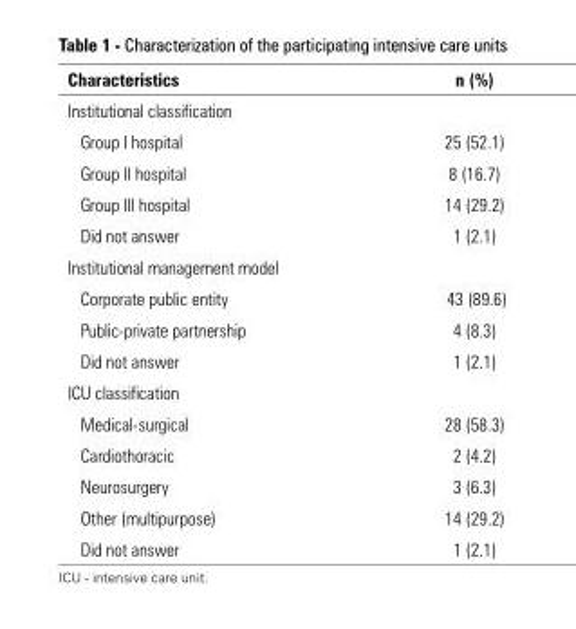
<table><thead><tr><td>Characteristics</td><td>n (%)</td></tr></thead><tbody><tr><td colspan="2">Institutional classification</td></tr><tr><td>Group I hospital</td><td>25 (52.1)</td></tr><tr><td>Group II hospital</td><td>8 (16.7)</td></tr><tr><td>Group III hospital</td><td>14 (29.2)</td></tr><tr><td>Did not answer</td><td>1 (2.1)</td></tr><tr><td colspan="2">Institutional management model</td></tr><tr><td>Corporate public entity</td><td>43 (89.6)</td></tr><tr><td>Public-private partnership</td><td>4 (8.3)</td></tr><tr><td>Did not answer</td><td>1 (2.1)</td></tr><tr><td colspan="2">ICU classification</td></tr><tr><td>Medical-surgical</td><td>28 (58.3)</td></tr><tr><td>Cardiothoracic</td><td>2 (4.2)</td></tr><tr><td>Neurosurgery</td><td>3 (6.3)</td></tr><tr><td>Other (multipurpose)</td><td>14 (29.2)</td></tr><tr><td>Did not answer</td><td>1 (2.1)</td></tr></tbody></table>